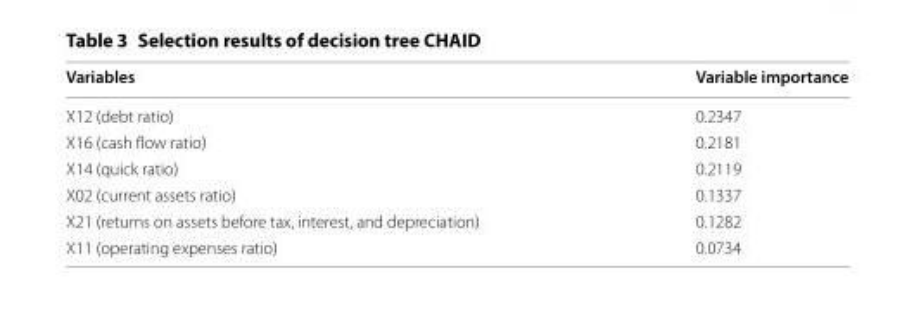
<table><thead><tr><td>Variables</td><td>Variable importance</td></tr></thead><tbody><tr><td>X12 (debt ratio)</td><td>0.2347</td></tr><tr><td>X16 (cash flow ratio)</td><td>0.2181</td></tr><tr><td>X14 (quick ratio)</td><td>0.2119</td></tr><tr><td>X02 (current assets ratio)</td><td>0.1337</td></tr><tr><td>X21 (returns on assets before tax, interest, and depreciation)</td><td>0.1282</td></tr><tr><td>X11 (operating expenses ratio)</td><td>0.0734</td></tr></tbody></table>